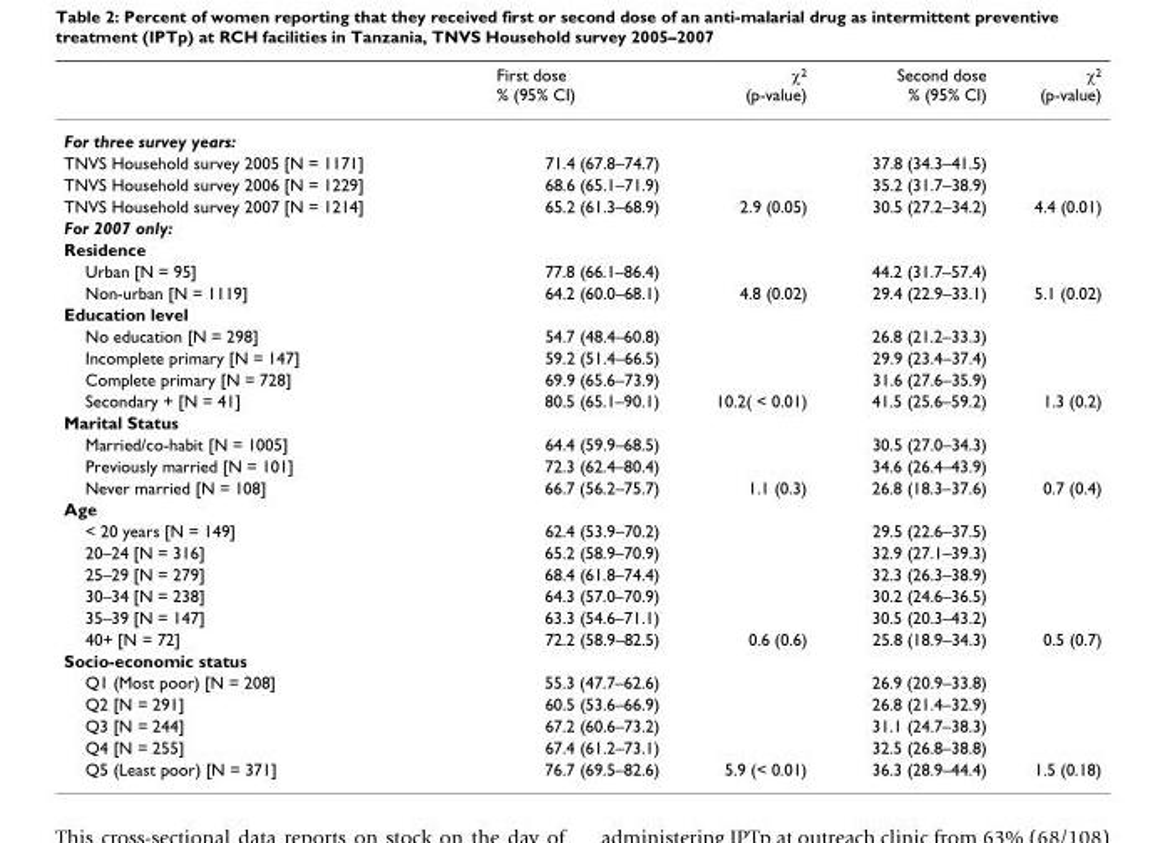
<table><thead><tr><td></td><td>First dose % (95% CI)</td><td>χ<sup>2</sup> (p-value)</td><td>Second dose % (95% CI)</td><td>χ<sup>2</sup> (p-value)</td></tr></thead><tbody><tr><td colspan="5">For three survey years:</td></tr><tr><td>TNVS Household survey 2005 [N = 1171]</td><td>71.4 (67.8–74.7)</td><td></td><td>37.8 (34.3–41.5)</td><td></td></tr><tr><td>TNVS Household survey 2006 [N = 1229]</td><td>68.6 (65.1–71.9)</td><td></td><td>35.2 (31.7–38.9)</td><td></td></tr><tr><td>TNVS Household survey 2007 [N = 1214]</td><td>65.2 (61.3–68.9)</td><td>2.9 (0.05)</td><td>30.5 (27.2–34.2)</td><td>4.4 (0.01)</td></tr><tr><td colspan="5">For 2007 only:</td></tr><tr><td colspan="5">Residence</td></tr><tr><td>Urban [N = 95]</td><td>77.8 (66.1–86.4)</td><td></td><td>44.2 (31.7–57.4)</td><td></td></tr><tr><td>Non-urban [N = 1119]</td><td>64.2 (60.0–68.1)</td><td>4.8 (0.02)</td><td>29.4 (22.9–33.1)</td><td>5.1 (0.02)</td></tr><tr><td colspan="5">Education level</td></tr><tr><td>No education [N = 298]</td><td>54.7 (48.4–60.8)</td><td></td><td>26.8 (21.2–33.3)</td><td></td></tr><tr><td>Incomplete primary [N = 147]</td><td>59.2 (51.4–66.5)</td><td></td><td>29.9 (23.4–37.4)</td><td></td></tr><tr><td>Complete primary [N = 728]</td><td>69.9 (65.6–73.9)</td><td></td><td>31.6 (27.6–35.9)</td><td></td></tr><tr><td>Secondary + [N = 41]</td><td>80.5 (65.1–90.1)</td><td>10.2( &lt; 0.01)</td><td>41.5 (25.6–59.2)</td><td>1.3 (0.2)</td></tr><tr><td colspan="5">Marital Status</td></tr><tr><td>Married/co-habit [N = 1005]</td><td>64.4 (59.9–68.5)</td><td></td><td>30.5 (27.0–34.3)</td><td></td></tr><tr><td>Previously married [N = 101]</td><td>72.3 (62.4–80.4)</td><td></td><td>34.6 (26.4–43.9)</td><td></td></tr><tr><td>Never married [N = 108]</td><td>66.7 (56.2–75.7)</td><td>1.1 (0.3)</td><td>26.8 (18.3–37.6)</td><td>0.7 (0.4)</td></tr><tr><td colspan="5">Age</td></tr><tr><td>&lt; 20 years [N = 149]</td><td>62.4 (53.9–70.2)</td><td></td><td>29.5 (22.6–37.5)</td><td></td></tr><tr><td>20–24 [N = 316]</td><td>65.2 (58.9–70.9)</td><td></td><td>32.9 (27.1–39.3)</td><td></td></tr><tr><td>25–29 [N = 279]</td><td>68.4 (61.8–74.4)</td><td></td><td>32.3 (26.3–38.9)</td><td></td></tr><tr><td>30–34 [N = 238]</td><td>64.3 (57.0–70.9)</td><td></td><td>30.2 (24.6–36.5)</td><td></td></tr><tr><td>35–39 [N = 147]</td><td>63.3 (54.6–71.1)</td><td></td><td>30.5 (20.3–43.2)</td><td></td></tr><tr><td>40+ [N = 72]</td><td>72.2 (58.9–82.5)</td><td>0.6 (0.6)</td><td>25.8 (18.9–34.3)</td><td>0.5 (0.7)</td></tr><tr><td colspan="5">Socio-economic status</td></tr><tr><td>Q1 (Most poor) [N = 208]</td><td>55.3 (47.7–62.6)</td><td></td><td>26.9 (20.9–33.8)</td><td></td></tr><tr><td>Q2 [N = 291]</td><td>60.5 (53.6–66.9)</td><td></td><td>26.8 (21.4–32.9)</td><td></td></tr><tr><td>Q3 [N = 244]</td><td>67.2 (60.6–73.2)</td><td></td><td>31.1 (24.7–38.3)</td><td></td></tr><tr><td>Q4 [N = 255]</td><td>67.4 (61.2–73.1)</td><td></td><td>32.5 (26.8–38.8)</td><td></td></tr><tr><td>Q5 (Least poor) [N = 371]</td><td>76.7 (69.5–82.6)</td><td>5.9 (&lt; 0.01)</td><td>36.3 (28.9–44.4)</td><td>1.5 (0.18)</td></tr></tbody></table>